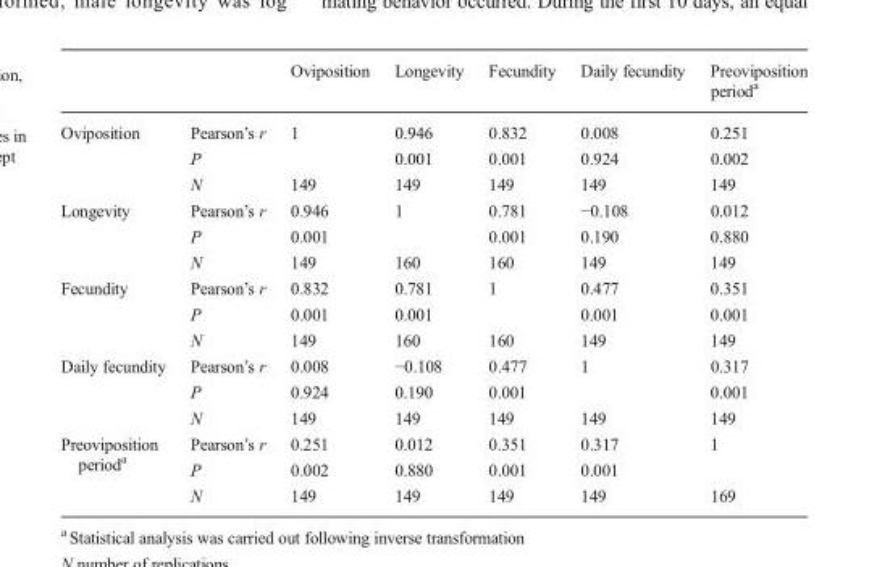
<table><thead><tr><td></td><td></td><td>Oviposition</td><td>Longevity</td><td>Fecundity</td><td>Daily fecundity</td><td>Preoviposition period<sup>a</sup></td></tr></thead><tbody><tr><td rowspan="3">Oviposition</td><td>Pearson’s r</td><td>1</td><td>0.946</td><td>0.832</td><td>0.008</td><td>0.251</td></tr><tr><td>P</td><td></td><td>0.001</td><td>0.001</td><td>0.924</td><td>0.002</td></tr><tr><td>N</td><td>149</td><td>149</td><td>149</td><td>149</td><td>149</td></tr><tr><td rowspan="3">Longevity</td><td>Pearson’s r</td><td>0.946</td><td>1</td><td>0.781</td><td>−0.108</td><td>0.012</td></tr><tr><td>P</td><td>0.001</td><td></td><td>0.001</td><td>0.190</td><td>0.880</td></tr><tr><td>N</td><td>149</td><td>160</td><td>160</td><td>149</td><td>149</td></tr><tr><td rowspan="3">Fecundity</td><td>Pearson’s r</td><td>0.832</td><td>0.781</td><td>1</td><td>0.477</td><td>0.351</td></tr><tr><td>P</td><td>0.001</td><td>0.001</td><td></td><td>0.001</td><td>0.001</td></tr><tr><td>N</td><td>149</td><td>160</td><td>160</td><td>149</td><td>149</td></tr><tr><td rowspan="3">Daily fecundity</td><td>Pearson’s r</td><td>0.008</td><td>−0.108</td><td>0.477</td><td>1</td><td>0.317</td></tr><tr><td>P</td><td>0.924</td><td>0.190</td><td>0.001</td><td></td><td>0.001</td></tr><tr><td>N</td><td>149</td><td>149</td><td>149</td><td>149</td><td>149</td></tr><tr><td rowspan="3">Preoviposition period<sup>a</sup></td><td>Pearson’s r</td><td>0.251</td><td>0.012</td><td>0.351</td><td>0.317</td><td>1</td></tr><tr><td>P</td><td>0.002</td><td>0.880</td><td>0.001</td><td>0.001</td><td></td></tr><tr><td>N</td><td>149</td><td>149</td><td>149</td><td>149</td><td>169</td></tr></tbody></table>